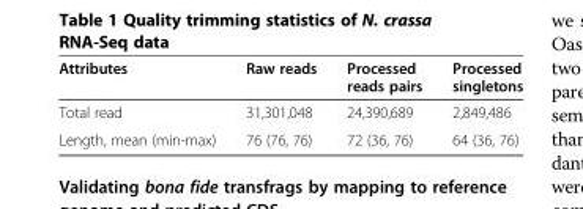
<table><thead><tr><td>Attributes</td><td>Raw reads</td><td>Processed reads pairs</td><td>Processed singletons</td></tr></thead><tbody><tr><td>Total read</td><td>31,301,048</td><td>24,390,689</td><td>2,849,486</td></tr><tr><td>Length, mean (min-max)</td><td>76 (76, 76)</td><td>72 (36, 76)</td><td>64 (36, 76)</td></tr></tbody></table>